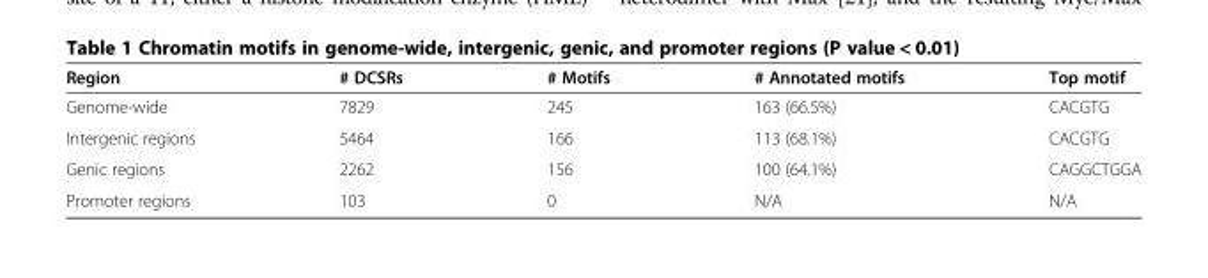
<table><thead><tr><td>Region</td><td># DCSRs</td><td># Motifs</td><td># Annotated motifs</td><td>Top motif</td></tr></thead><tbody><tr><td>Genome-wide</td><td>7829</td><td>245</td><td>163 (66.5%)</td><td>CACGTG</td></tr><tr><td>Intergenic regions</td><td>5464</td><td>166</td><td>113 (68.1%)</td><td>CACGTG</td></tr><tr><td>Genic regions</td><td>2262</td><td>156</td><td>100 (64.1%)</td><td>CAGGCTGGA</td></tr><tr><td>Promoter regions</td><td>103</td><td>0</td><td>N/A</td><td>N/A</td></tr></tbody></table>